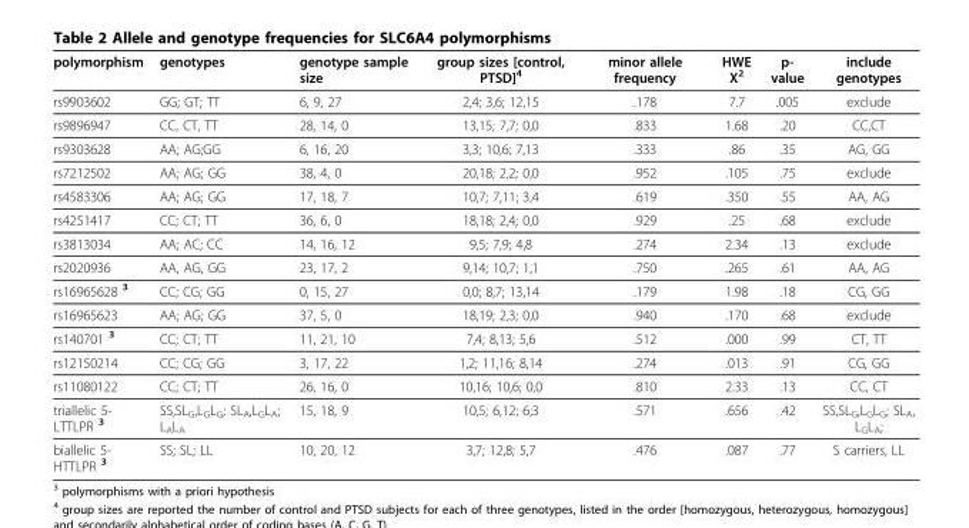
<table><thead><tr><td>polymorphism</td><td>genotypes</td><td>genotype sample size</td><td>group sizes [control, PTSD]<sup>4</sup></td><td>minor allele frequency</td><td>HWE Χ<sup>2</sup></td><td>p- value</td><td>include genotypes</td></tr></thead><tbody><tr><td>rs9903602</td><td>GG; GT; TT</td><td>6, 9, 27</td><td>2,4; 3,6; 12,15</td><td>.178</td><td>7.7</td><td>.005</td><td>exclude</td></tr><tr><td>rs9896947</td><td>CC, CT, TT</td><td>28, 14, 0</td><td>13,15; 7,7; 0,0</td><td>.833</td><td>1.68</td><td>.20</td><td>CC,CT</td></tr><tr><td>rs9303628</td><td>AA; AG;GG</td><td>6, 16, 20</td><td>3,3; 10,6; 7,13</td><td>.333</td><td>.86</td><td>.35</td><td>AG, GG</td></tr><tr><td>rs7212502</td><td>AA; AG; GG</td><td>38, 4, 0</td><td>20,18; 2,2; 0,0</td><td>.952</td><td>.105</td><td>.75</td><td>exclude</td></tr><tr><td>rs4583306</td><td>AA; AG; GG</td><td>17, 18, 7</td><td>10,7; 7,11; 3,4</td><td>.619</td><td>.350</td><td>.55</td><td>AA, AG</td></tr><tr><td>rs4251417</td><td>CC; CT; TT</td><td>36, 6, 0</td><td>18,18; 2,4; 0,0</td><td>.929</td><td>.25</td><td>.68</td><td>exclude</td></tr><tr><td>rs3813034</td><td>AA; AC; CC</td><td>14, 16, 12</td><td>9,5; 7,9; 4,8</td><td>.274</td><td>2.34</td><td>.13</td><td>exclude</td></tr><tr><td>rs2020936</td><td>AA, AG, GG</td><td>23, 17, 2</td><td>9,14; 10,7; 1,1</td><td>.750</td><td>.265</td><td>.61</td><td>AA, AG</td></tr><tr><td>rs16965628 <sup>3</sup></td><td>CC; CG; GG</td><td>0, 15, 27</td><td>0,0; 8,7; 13,14</td><td>.179</td><td>1.98</td><td>.18</td><td>CG, GG</td></tr><tr><td>rs16965623</td><td>AA; AG; GG</td><td>37, 5, 0</td><td>18,19; 2,3; 0,0</td><td>.940</td><td>.170</td><td>.68</td><td>exclude</td></tr><tr><td>rs140701 <sup>3</sup></td><td>CC; CT; TT</td><td>11, 21, 10</td><td>7,4; 8,13; 5,6</td><td>.512</td><td>.000</td><td>.99</td><td>CT, TT</td></tr><tr><td>rs12150214</td><td>CC; CG; GG</td><td>3, 17, 22</td><td>1,2; 11,16; 8,14</td><td>.274</td><td>.013</td><td>.91</td><td>CG, GG</td></tr><tr><td>rs11080122</td><td>CC; CT; TT</td><td>26, 16, 0</td><td>10,16; 10,6; 0,0</td><td>.810</td><td>2.33</td><td>.13</td><td>CC, CT</td></tr><tr><td>triallelic 5- LTTLPR <sup>3</sup></td><td>SS,SL<sub>G</sub>,L<sub>G</sub>L<sub>G</sub>; SL<sub>A</sub>,L<sub>G</sub>L<sub>A</sub>; L<sub>A</sub>L<sub>A</sub></td><td>15, 18, 9</td><td>10,5; 6,12; 6;3</td><td>.571</td><td>.656</td><td>.42</td><td>SS,SL<sub>G</sub>,L<sub>G</sub>L<sub>G</sub>; SL<sub>A</sub>, L<sub>G</sub>L<sub>A</sub>;</td></tr><tr><td>biallelic 5- HTTLPR <sup>3</sup></td><td>SS; SL; LL</td><td>10, 20, 12</td><td>3,7; 12,8; 5,7</td><td>.476</td><td>.087</td><td>.77</td><td>S carriers, LL</td></tr></tbody></table>